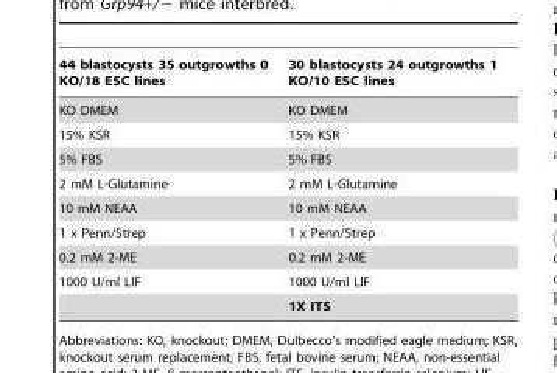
<table><thead><tr><td>44 blastocysts 35 outgrowths 0 KO/18 ESC lines</td><td>30 blastocysts 24 outgrowths 1 KO/10 ESC lines</td></tr></thead><tbody><tr><td>KO DMEM</td><td>KO DMEM</td></tr><tr><td>15% KSR</td><td>15% KSR</td></tr><tr><td>5% FBS</td><td>5% FBS</td></tr><tr><td>2 mM L-Glutamine</td><td>2 mM L-Glutamine</td></tr><tr><td>10 mM NEAA</td><td>10 mM NEAA</td></tr><tr><td>1 x Penn/Strep</td><td>1 x Penn/Strep</td></tr><tr><td>0.2 mM 2-ME</td><td>0.2 mM 2-ME</td></tr><tr><td rowspan="2">1000 U/ml LlF</td><td>1000 U/ml LlF</td></tr><tr><td>1X ITS</td></tr></tbody></table>